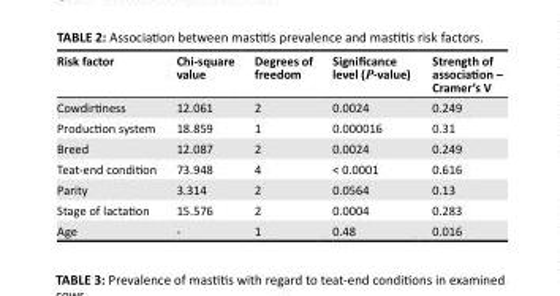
<table><thead><tr><td>Risk factor</td><td>Chi-square value</td><td>Degrees of freedom</td><td>Significance level (P-value)</td><td>Strength of association – Cramer’s V</td></tr></thead><tbody><tr><td>Cowdirtiness</td><td>12.061</td><td>2</td><td>0.0024</td><td>0.249</td></tr><tr><td>Production system</td><td>18.859</td><td>1</td><td>0.000016</td><td>0.31</td></tr><tr><td>Breed</td><td>12.087</td><td>2</td><td>0.0024</td><td>0.249</td></tr><tr><td>Teat-end condition</td><td>73.948</td><td>4</td><td>&lt; 0.0001</td><td>0.616</td></tr><tr><td>Parity</td><td>3.314</td><td>2</td><td>0.0564</td><td>0.13</td></tr><tr><td>Stage of lactation</td><td>15.576</td><td>2</td><td>0.0004</td><td>0.283</td></tr><tr><td>Age</td><td>-</td><td>1</td><td>0.48</td><td>0.016</td></tr></tbody></table>